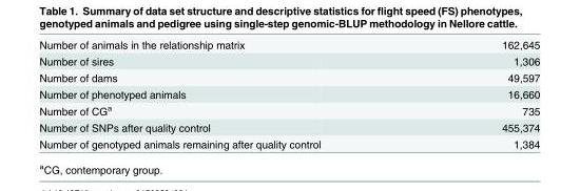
<table><tbody><tr><td>Number of animals in the relationship matrix</td><td>162,645</td></tr><tr><td>Number of sires</td><td>1,306</td></tr><tr><td>Number of dams</td><td>49,597</td></tr><tr><td>Number of phenotyped animals</td><td>16,660</td></tr><tr><td>Number of CG<sup>a</sup></td><td>735</td></tr><tr><td>Number of SNPs after quality control</td><td>455,374</td></tr><tr><td>Number of genotyped animals remaining after quality control</td><td>1,384</td></tr></tbody></table>